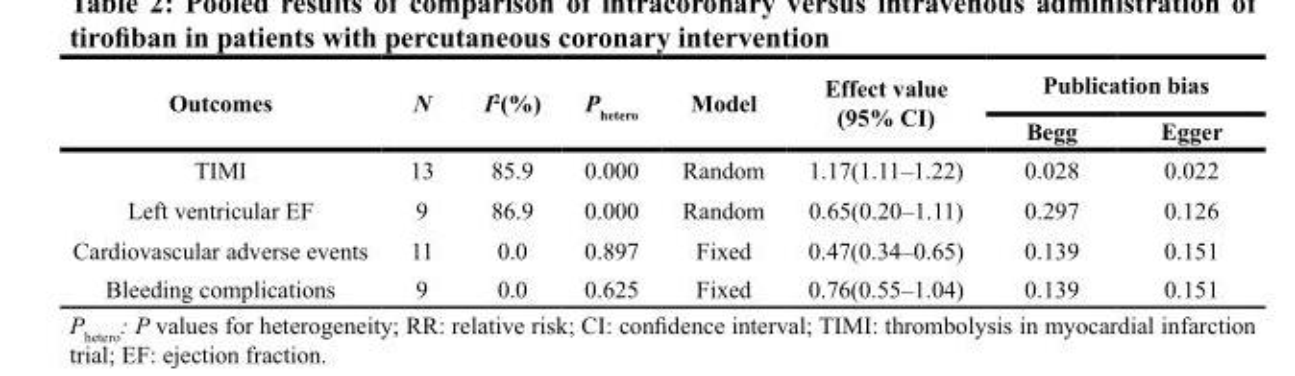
<table><thead><tr><td rowspan="2">Outcomes</td><td rowspan="2">N</td><td rowspan="2">I<sup>2</sup>(%)</td><td rowspan="2">P<sub>hetero</sub></td><td rowspan="2">Model</td><td rowspan="2">Effect value (95% CI)</td><td colspan="2">Publication bias</td></tr><tr><td>Begg</td><td>Egger</td></tr></thead><tbody><tr><td>TIMI</td><td>13</td><td>85.9</td><td>0.000</td><td>Random</td><td>1.17(1.11–1.22)</td><td>0.028</td><td>0.022</td></tr><tr><td>Left ventricular EF</td><td>9</td><td>86.9</td><td>0.000</td><td>Random</td><td>0.65(0.20–1.11)</td><td>0.297</td><td>0.126</td></tr><tr><td>Cardiovascular adverse events</td><td>11</td><td>0.0</td><td>0.897</td><td>Fixed</td><td>0.47(0.34–0.65)</td><td>0.139</td><td>0.151</td></tr><tr><td>Bleeding complications</td><td>9</td><td>0.0</td><td>0.625</td><td>Fixed</td><td>0.76(0.55–1.04)</td><td>0.139</td><td>0.151</td></tr></tbody></table>